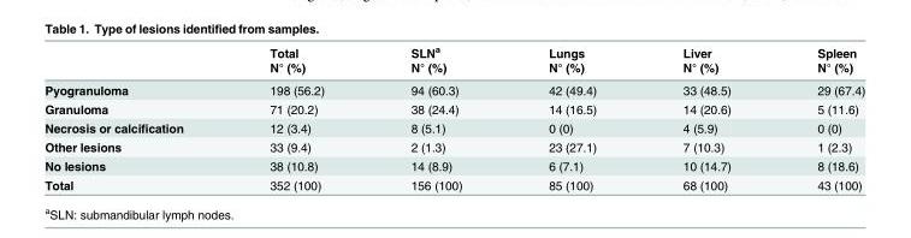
<table><thead><tr><td rowspan="2"></td><td rowspan="2">Total N° (%)</td><td rowspan="2">SLN<sup>a</sup> N° (%)</td><td rowspan="2">Lungs N° (%)</td><td rowspan="2">Liver N° (%)</td><td rowspan="2">Spleen N° (%)</td></tr><tr></tr></thead><tbody><tr><td>Pyogranuloma</td><td>198 (56.2)</td><td>94 (60.3)</td><td>42 (49.4)</td><td>33 (48.5)</td><td>29 (67.4)</td></tr><tr><td>Granuloma</td><td>71 (20.2)</td><td>38 (24.4)</td><td>14 (16.5)</td><td>14 (20.6)</td><td>5 (11.6)</td></tr><tr><td>Necrosis or calcification</td><td>12 (3.4)</td><td>8 (5.1)</td><td>0 (0)</td><td>4 (5.9)</td><td>0 (0)</td></tr><tr><td>Other lesions</td><td>33 (9.4)</td><td>2 (1.3)</td><td>23 (27.1)</td><td>7 (10.3)</td><td>1 (2.3)</td></tr><tr><td>No lesions</td><td>38 (10.8)</td><td>14 (8.9)</td><td>6 (7.1)</td><td>10 (14.7)</td><td>8 (18.6)</td></tr><tr><td>Total</td><td>352 (100)</td><td>156 (100)</td><td>85 (100)</td><td>68 (100)</td><td>43 (100)</td></tr></tbody></table>